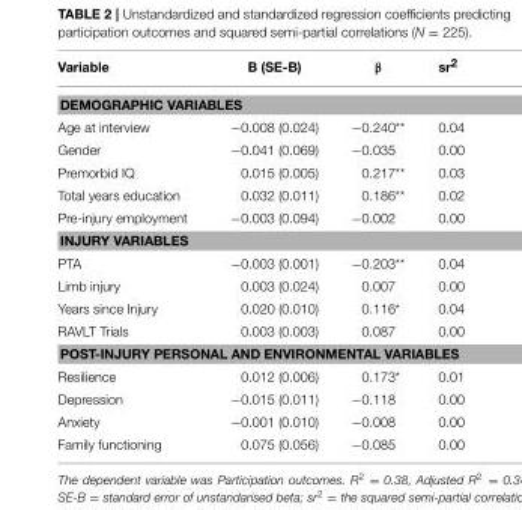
<table><thead><tr><td>Variable</td><td>B (SE-B)</td><td>β</td><td>sr<sup>2</sup></td></tr></thead><tbody><tr><td colspan="4">DEMOGRAPHIC VARIABLES</td></tr><tr><td>Age at interview</td><td>−0.008 (0.024)</td><td>−0.240**</td><td>0.04</td></tr><tr><td>Gender</td><td>−0.041 (0.069)</td><td>−0.035</td><td>0.00</td></tr><tr><td>Premorbid IQ</td><td>0.015 (0.005)</td><td>0.217**</td><td>0.03</td></tr><tr><td>Total years education</td><td>0.032 (0.011)</td><td>0.186**</td><td>0.02</td></tr><tr><td>Pre-injury employment</td><td>−0.003 (0.094)</td><td>−0.002</td><td>0.00</td></tr><tr><td colspan="4">INJURY VARIABLES</td></tr><tr><td>PTA</td><td>−0.003 (0.001)</td><td>−0.203**</td><td>0.04</td></tr><tr><td>Limb injury</td><td>0.003 (0.024)</td><td>0.007</td><td>0.00</td></tr><tr><td>Years since Injury</td><td>0.020 (0.010)</td><td>0.116*</td><td>0.04</td></tr><tr><td>RAVLT Trials</td><td>0.003 (0.003)</td><td>0.087</td><td>0.00</td></tr><tr><td colspan="4">POST-INJURY PERSONAL AND ENVIRONMENTAL VARIABLES</td></tr><tr><td>Resilience</td><td>0.012 (0.006)</td><td>0.173*</td><td>0.01</td></tr><tr><td>Depression</td><td>−0.015 (0.011)</td><td>−0.118</td><td>0.00</td></tr><tr><td>Anxiety</td><td>−0.001 (0.010)</td><td>−0.008</td><td>0.00</td></tr><tr><td>Family functioning</td><td>0.075 (0.056)</td><td>−0.085</td><td>0.00</td></tr></tbody></table>